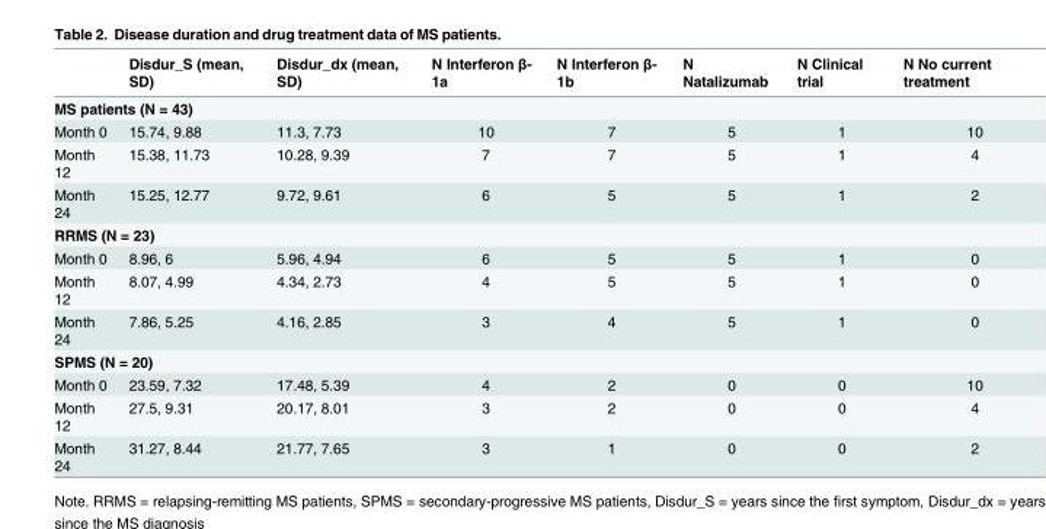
<table><thead><tr><td></td><td>Disdur_S (mean, SD)</td><td>Disdur_dx (mean, SD)</td><td>N Interferon β- 1a</td><td>N Interferon β- 1b</td><td>N Natalizumab</td><td>N Clinical trial</td><td>N No current treatment</td></tr></thead><tbody><tr><td colspan="8">MS patients (N = 43)</td></tr><tr><td>Month 0</td><td>15.74, 9.88</td><td>11.3, 7.73</td><td>10</td><td>7</td><td>5</td><td>1</td><td>10</td></tr><tr><td>Month 12</td><td>15.38, 11.73</td><td>10.28, 9.39</td><td>7</td><td>7</td><td>5</td><td>1</td><td>4</td></tr><tr><td>Month 24</td><td>15.25, 12.77</td><td>9.72, 9.61</td><td>6</td><td>5</td><td>5</td><td>1</td><td>2</td></tr><tr><td colspan="8">RRMS (N = 23)</td></tr><tr><td>Month 0</td><td>8.96, 6</td><td>5.96, 4.94</td><td>6</td><td>5</td><td>5</td><td>1</td><td>0</td></tr><tr><td>Month 12</td><td>8.07, 4.99</td><td>4.34, 2.73</td><td>4</td><td>5</td><td>5</td><td>1</td><td>0</td></tr><tr><td>Month 24</td><td>7.86, 5.25</td><td>4.16, 2.85</td><td>3</td><td>4</td><td>5</td><td>1</td><td>0</td></tr><tr><td colspan="8">SPMS (N = 20)</td></tr><tr><td>Month 0</td><td>23.59, 7.32</td><td>17.48, 5.39</td><td>4</td><td>2</td><td>0</td><td>0</td><td>10</td></tr><tr><td>Month 12</td><td>27.5, 9.31</td><td>20.17, 8.01</td><td>3</td><td>2</td><td>0</td><td>0</td><td>4</td></tr><tr><td>Month 24</td><td>31.27, 8.44</td><td>21.77, 7.65</td><td>3</td><td>1</td><td>0</td><td>0</td><td>2</td></tr></tbody></table>